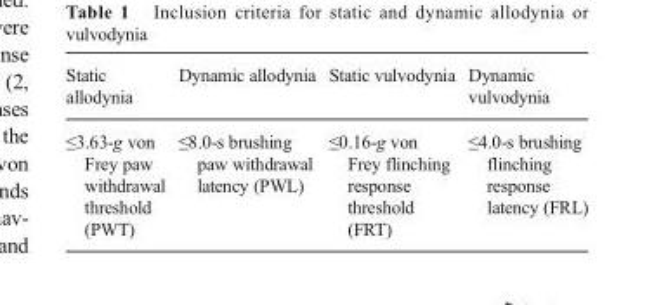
<table><thead><tr><td>Static allodynia</td><td>Dynamic allodynia</td><td>Static vulvodynia</td><td>Dynamic vulvodynia</td></tr></thead><tbody><tr><td>≤3.63-g von Frey paw withdrawal threshold (PWT)</td><td>≤8.0-s brushing paw withdrawal latency (PWL)</td><td>≤0.16-g von Frey flinching response threshold (FRT)</td><td>≤4.0-s brushing flinching response latency (FRL)</td></tr></tbody></table>